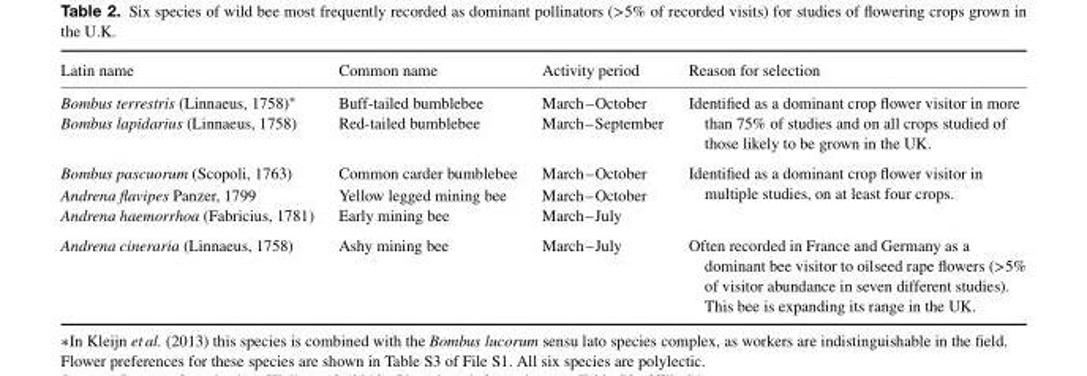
<table><thead><tr><td>Latin name</td><td>Common name</td><td>Activity period</td><td>Reason for selection</td></tr></thead><tbody><tr><td>Bombus terrestris (Linnaeus, 1758)∗</td><td>Buff-tailed bumblebee</td><td>March–October</td><td rowspan="2">Identified as a dominant crop flower visitor in more than 75% of studies and on all crops studied of those likely to be grown in the UK.</td></tr><tr><td>Bombus lapidarius (Linnaeus, 1758)</td><td>Red-tailed bumblebee</td><td>March–September</td></tr><tr><td>Bombus pascuorum (Scopoli, 1763)</td><td>Common carder bumblebee</td><td>March–October</td><td rowspan="3">Identified as a dominant crop flower visitor in multiple studies, on at least four crops.</td></tr><tr><td>Andrena flavipes Panzer, 1799</td><td>Yellow legged mining bee</td><td>March–October</td></tr><tr><td>Andrena haemorrhoa (Fabricius, 1781)</td><td>Early mining bee</td><td>March–July</td></tr><tr><td>Andrena cineraria (Linnaeus, 1758)</td><td>Ashy mining bee</td><td>March–July</td><td>Often recorded in France and Germany as a dominant bee visitor to oilseed rape flowers (&gt;5% of visitor abundance in seven different studies). This bee is expanding its range in the UK.</td></tr></tbody></table>